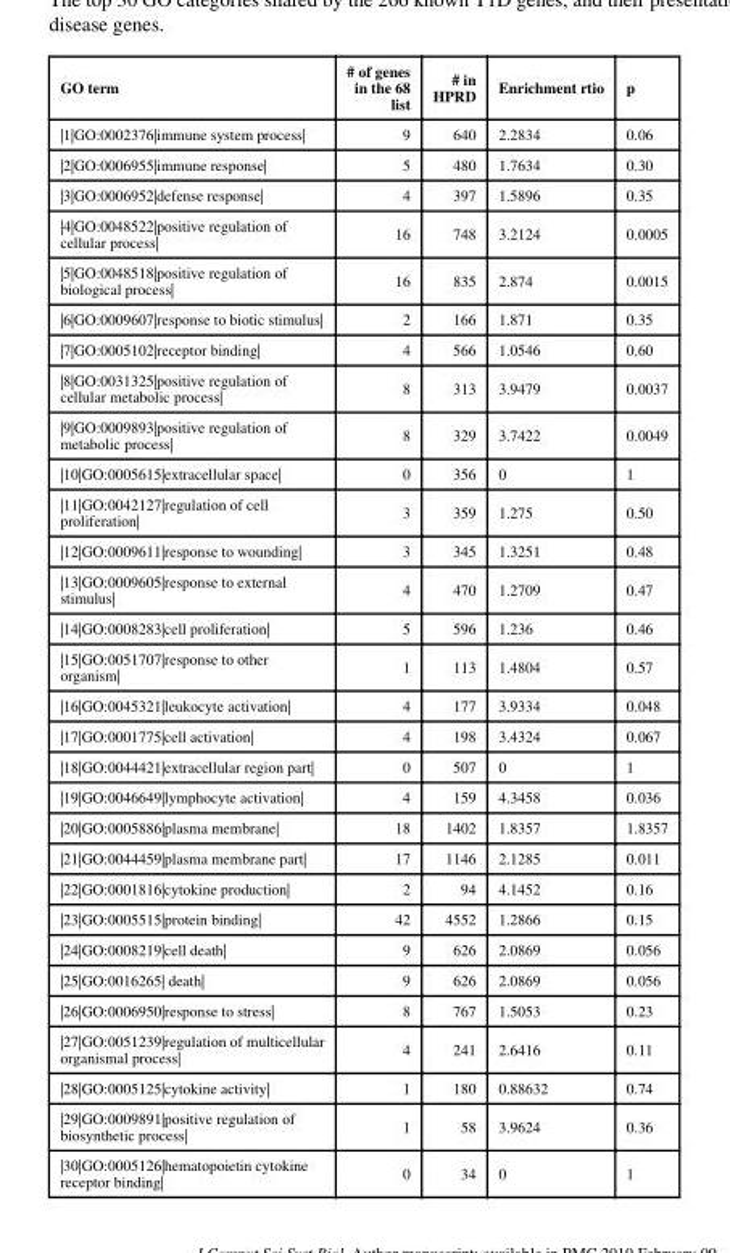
<table><thead><tr><td>GO term</td><td># of genes in the 68 list</td><td># in HPRD</td><td>Enrichment rtio</td><td>p</td></tr></thead><tbody><tr><td>|1|GO:0002376|immune system process|</td><td>9</td><td>640</td><td>2.2834</td><td>0.06</td></tr><tr><td>|2|GO:0006955|immune response|</td><td>5</td><td>480</td><td>1.7634</td><td>0.30</td></tr><tr><td>|3|GO:0006952|defense response|</td><td>4</td><td>397</td><td>1.5896</td><td>0.35</td></tr><tr><td>|4|GO:0048522|positive regulation of cellular process|</td><td>16</td><td>748</td><td>3.2124</td><td>0.0005</td></tr><tr><td>|5|GO:0048518|positive regulation of biological process|</td><td>16</td><td>835</td><td>2.874</td><td>0.0015</td></tr><tr><td>|6|GO:0009607|response to biotic stimulus|</td><td>2</td><td>166</td><td>1.871</td><td>0.35</td></tr><tr><td>|7|GO:0005102|receptor binding|</td><td>4</td><td>566</td><td>1.0546</td><td>0.60</td></tr><tr><td>|8|GO:0031325|positive regulation of cellular metabolic process|</td><td>8</td><td>313</td><td>3.9479</td><td>0.0037</td></tr><tr><td>|9|GO:0009893|positive regulation of metabolic process|</td><td>8</td><td>329</td><td>3.7422</td><td>0.0049</td></tr><tr><td>|10|GO:0005615|extracellular space|</td><td>0</td><td>356</td><td>0</td><td>1</td></tr><tr><td>|11|GO:0042127|regulation of cell proliferation|</td><td>3</td><td>359</td><td>1.275</td><td>0.50</td></tr><tr><td>|12|GO:0009611|response to wounding|</td><td>3</td><td>345</td><td>1.3251</td><td>0.48</td></tr><tr><td>|13|GO:0009605|response to external stimulus|</td><td>4</td><td>470</td><td>1.2709</td><td>0.47</td></tr><tr><td>|14|GO:0008283|cell proliferation|</td><td>5</td><td>596</td><td>1.236</td><td>0.46</td></tr><tr><td>|15|GO:0051707|response to other organism|</td><td>1</td><td>113</td><td>1.4804</td><td>0.57</td></tr><tr><td>|16|GO:0045321|leukocyte activation|</td><td>4</td><td>177</td><td>3.9334</td><td>0.048</td></tr><tr><td>|17|GO:0001775|cell activation|</td><td>4</td><td>198</td><td>3.4324</td><td>0.067</td></tr><tr><td>|18|GO:0044421|extracellular region part|</td><td>0</td><td>507</td><td>0</td><td>1</td></tr><tr><td>|19|GO:0046649|lymphocyte activation|</td><td>4</td><td>159</td><td>4.3458</td><td>0.036</td></tr><tr><td>|20|GO:0005886|plasma membrane|</td><td>18</td><td>1402</td><td>1.8357</td><td>1.8357</td></tr><tr><td>|21|GO:0044459|plasma membrane part|</td><td>17</td><td>1146</td><td>2.1285</td><td>0.011</td></tr><tr><td>|22|GO:0001816|cytokine production|</td><td>2</td><td>94</td><td>4.1452</td><td>0.16</td></tr><tr><td>|23|GO:0005515|protein binding|</td><td>42</td><td>4552</td><td>1.2866</td><td>0.15</td></tr><tr><td>|24|GO:0008219|cell death|</td><td>9</td><td>626</td><td>2.0869</td><td>0.056</td></tr><tr><td>|25|GO:0016265| death|</td><td>9</td><td>626</td><td>2.0869</td><td>0.056</td></tr><tr><td>|26|GO:0006950|response to stress|</td><td>8</td><td>767</td><td>1.5053</td><td>0.23</td></tr><tr><td>|27|GO:0051239|regulation of multicellular organismal process|</td><td>4</td><td>241</td><td>2.6416</td><td>0.11</td></tr><tr><td>|28|GO:0005125|cytokine activity|</td><td>1</td><td>180</td><td>0.88632</td><td>0.74</td></tr><tr><td>|29|GO:0009891|positive regulation of biosynthetic process|</td><td>1</td><td>58</td><td>3.9624</td><td>0.36</td></tr><tr><td>|30|GO:0005126|hematopoietin cytokine receptor binding|</td><td>0</td><td>34</td><td>0</td><td>1</td></tr></tbody></table>